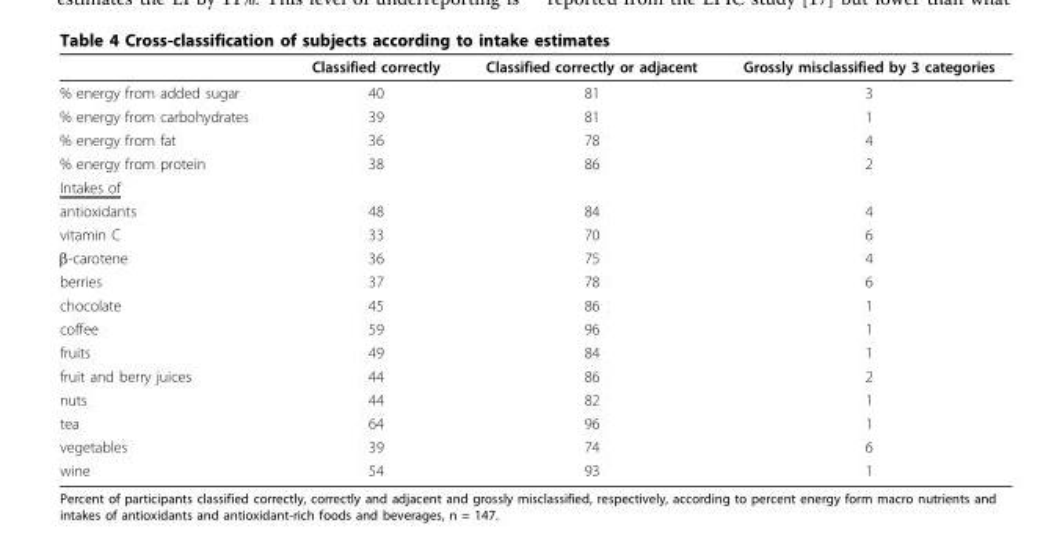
<table><thead><tr><td></td><td>Classified correctly</td><td>Classified correctly or adjacent</td><td>Grossly misclassified by 3 categories</td></tr></thead><tbody><tr><td>% energy from added sugar</td><td>40</td><td>81</td><td>3</td></tr><tr><td>% energy from carbohydrates</td><td>39</td><td>81</td><td>1</td></tr><tr><td>% energy from fat</td><td>36</td><td>78</td><td>4</td></tr><tr><td>% energy from protein</td><td>38</td><td>86</td><td>2</td></tr><tr><td colspan="4">Intakes of</td></tr><tr><td>antioxidants</td><td>48</td><td>84</td><td>4</td></tr><tr><td>vitamin C</td><td>33</td><td>70</td><td>6</td></tr><tr><td>β-carotene</td><td>36</td><td>75</td><td>4</td></tr><tr><td>berries</td><td>37</td><td>78</td><td>6</td></tr><tr><td>chocolate</td><td>45</td><td>86</td><td>1</td></tr><tr><td>coffee</td><td>59</td><td>96</td><td>1</td></tr><tr><td>fruits</td><td>49</td><td>84</td><td>1</td></tr><tr><td>fruit and berry juices</td><td>44</td><td>86</td><td>2</td></tr><tr><td>nuts</td><td>44</td><td>82</td><td>1</td></tr><tr><td>tea</td><td>64</td><td>96</td><td>1</td></tr><tr><td>vegetables</td><td>39</td><td>74</td><td>6</td></tr><tr><td>wine</td><td>54</td><td>93</td><td>1</td></tr></tbody></table>